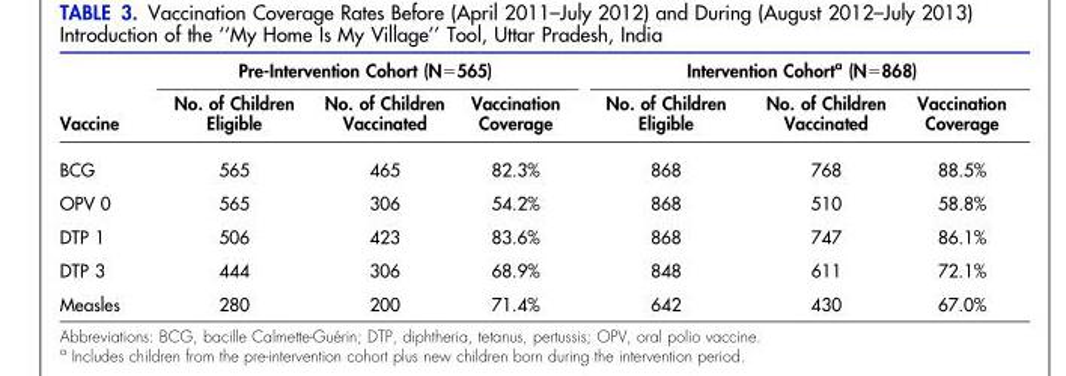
<table><thead><tr><td rowspan="2">Vaccine</td><td colspan="3">Pre-Intervention Cohort (N=565)</td><td colspan="3">Intervention Cohort<sup>a</sup> (N=868)</td></tr><tr><td>No. of Children Eligible</td><td>No. of Children Vaccinated</td><td>Vaccination Coverage</td><td>No. of Children Eligible</td><td>No. of Children Vaccinated</td><td>Vaccination Coverage</td></tr></thead><tbody><tr><td>BCG</td><td>565</td><td>465</td><td>82.3%</td><td>868</td><td>768</td><td>88.5%</td></tr><tr><td>OPV 0</td><td>565</td><td>306</td><td>54.2%</td><td>868</td><td>510</td><td>58.8%</td></tr><tr><td>DTP 1</td><td>506</td><td>423</td><td>83.6%</td><td>868</td><td>747</td><td>86.1%</td></tr><tr><td>DTP 3</td><td>444</td><td>306</td><td>68.9%</td><td>848</td><td>611</td><td>72.1%</td></tr><tr><td>Measles</td><td>280</td><td>200</td><td>71.4%</td><td>642</td><td>430</td><td>67.0%</td></tr></tbody></table>